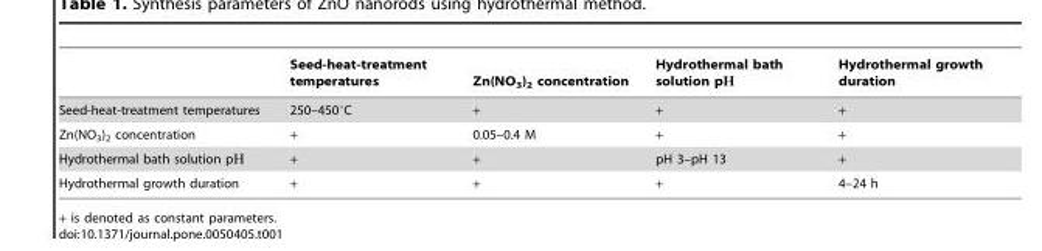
<table><thead><tr><td></td><td>Seed-heat-treatment temperatures</td><td>Zn(NO<sub>3</sub>)<sub>2</sub> concentration</td><td>Hydrothermal bath solution pΗ</td><td>Hydrothermal growth duration</td></tr></thead><tbody><tr><td>Seed-heat-treatment temperatures</td><td>250–450°C</td><td>+</td><td>+</td><td>+</td></tr><tr><td>Zn(NO<sub>3</sub>)<sub>2</sub> concentration</td><td>+</td><td>0.05–0.4 M</td><td>+</td><td>+</td></tr><tr><td>Hydrothermal bath solution pΗ</td><td>+</td><td>+</td><td>pH 3–pH 13</td><td>+</td></tr><tr><td>Hydrothermal growth duration</td><td>+</td><td>+</td><td>+</td><td>4–24 h</td></tr></tbody></table>